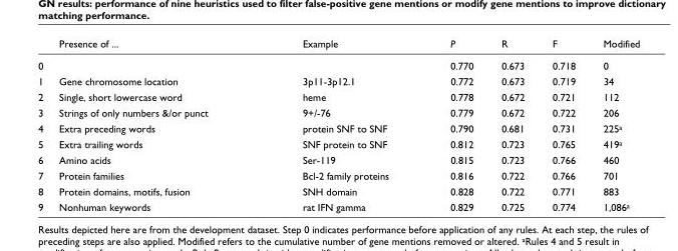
<table><thead><tr><td></td><td>Presence of ...</td><td>Example</td><td>P</td><td>R</td><td>F</td><td>Modified</td></tr></thead><tbody><tr><td>0</td><td></td><td></td><td>0.770</td><td>0.673</td><td>0.718</td><td>0</td></tr><tr><td>1</td><td>Gene chromosome location</td><td>3p11-3p12.1</td><td>0.772</td><td>0.673</td><td>0.719</td><td>34</td></tr><tr><td>2</td><td>Single, short lowercase word</td><td>heme</td><td>0.778</td><td>0.672</td><td>0.721</td><td>112</td></tr><tr><td>3</td><td>Strings of only numbers &amp;/or punct</td><td>9+/-76</td><td>0.779</td><td>0.672</td><td>0.722</td><td>206</td></tr><tr><td>4</td><td>Extra preceding words</td><td>protein SNF to SNF</td><td>0.790</td><td>0.681</td><td>0.731</td><td>225<sup>a</sup></td></tr><tr><td>5</td><td>Extra trailing words</td><td>SNF protein to SNF</td><td>0.812</td><td>0.723</td><td>0.765</td><td>419<sup>a</sup></td></tr><tr><td>6</td><td>Amino acids</td><td>Ser-119</td><td>0.815</td><td>0.723</td><td>0.766</td><td>460</td></tr><tr><td>7</td><td>Protein families</td><td>Bcl-2 family proteins</td><td>0.816</td><td>0.722</td><td>0.766</td><td>701</td></tr><tr><td>8</td><td>Protein domains, motifs, fusion</td><td>SNH domain</td><td>0.828</td><td>0.722</td><td>0.771</td><td>883</td></tr><tr><td>9</td><td>Nonhuman keywords</td><td>rat IFN gamma</td><td>0.829</td><td>0.725</td><td>0.774</td><td>1,086<sup>a</sup></td></tr></tbody></table>